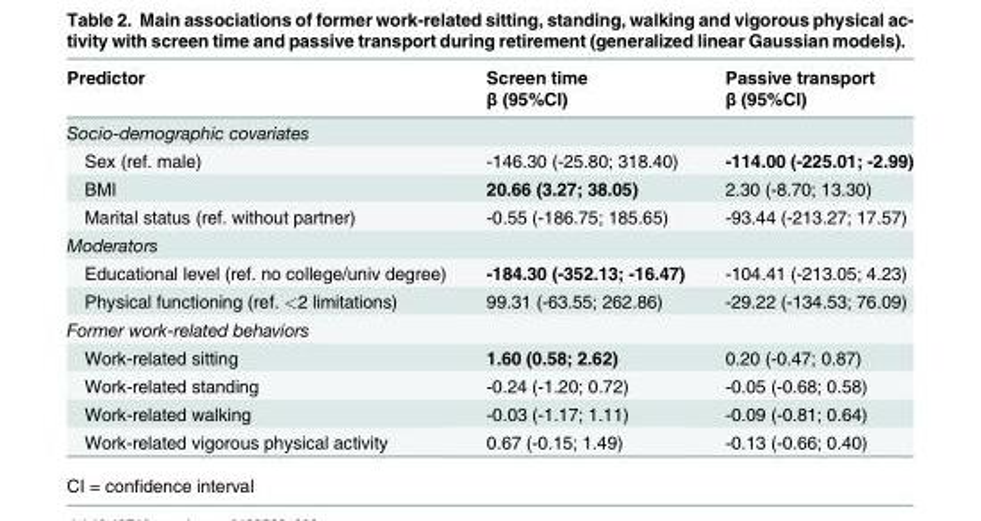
<table><thead><tr><td rowspan="2">Predictor</td><td rowspan="2">Screen time β (95%CI)</td><td rowspan="2">Passive transport β (95%CI)</td></tr><tr></tr></thead><tbody><tr><td colspan="3">Socio-demographic covariates</td></tr><tr><td>Sex (ref. male)</td><td>-146.30 (-25.80; 318.40)</td><td>-114.00 (-225.01; -2.99)</td></tr><tr><td>BMI</td><td>20.66 (3.27; 38.05)</td><td>2.30 (-8.70; 13.30)</td></tr><tr><td>Marital status (ref. without partner)</td><td>-0.55 (-186.75; 185.65)</td><td>-93.44 (-213.27; 17.57)</td></tr><tr><td colspan="3">Moderators</td></tr><tr><td>Educational level (ref. no college/univ degree)</td><td>-184.30 (-352.13; -16.47)</td><td>-104.41 (-213.05; 4.23)</td></tr><tr><td>Physical functioning (ref. &lt;2 limitations)</td><td>99.31 (-63.55; 262.86)</td><td>-29.22 (-134.53; 76.09)</td></tr><tr><td colspan="3">Former work-related behaviors</td></tr><tr><td>Work-related sitting</td><td>1.60 (0.58; 2.62)</td><td>0.20 (-0.47; 0.87)</td></tr><tr><td>Work-related standing</td><td>-0.24 (-1.20; 0.72)</td><td>-0.05 (-0.68; 0.58)</td></tr><tr><td>Work-related walking</td><td>-0.03 (-1.17; 1.11)</td><td>-0.09 (-0.81; 0.64)</td></tr><tr><td>Work-related vigorous physical activity</td><td>0.67 (-0.15; 1.49)</td><td>-0.13 (-0.66; 0.40)</td></tr></tbody></table>